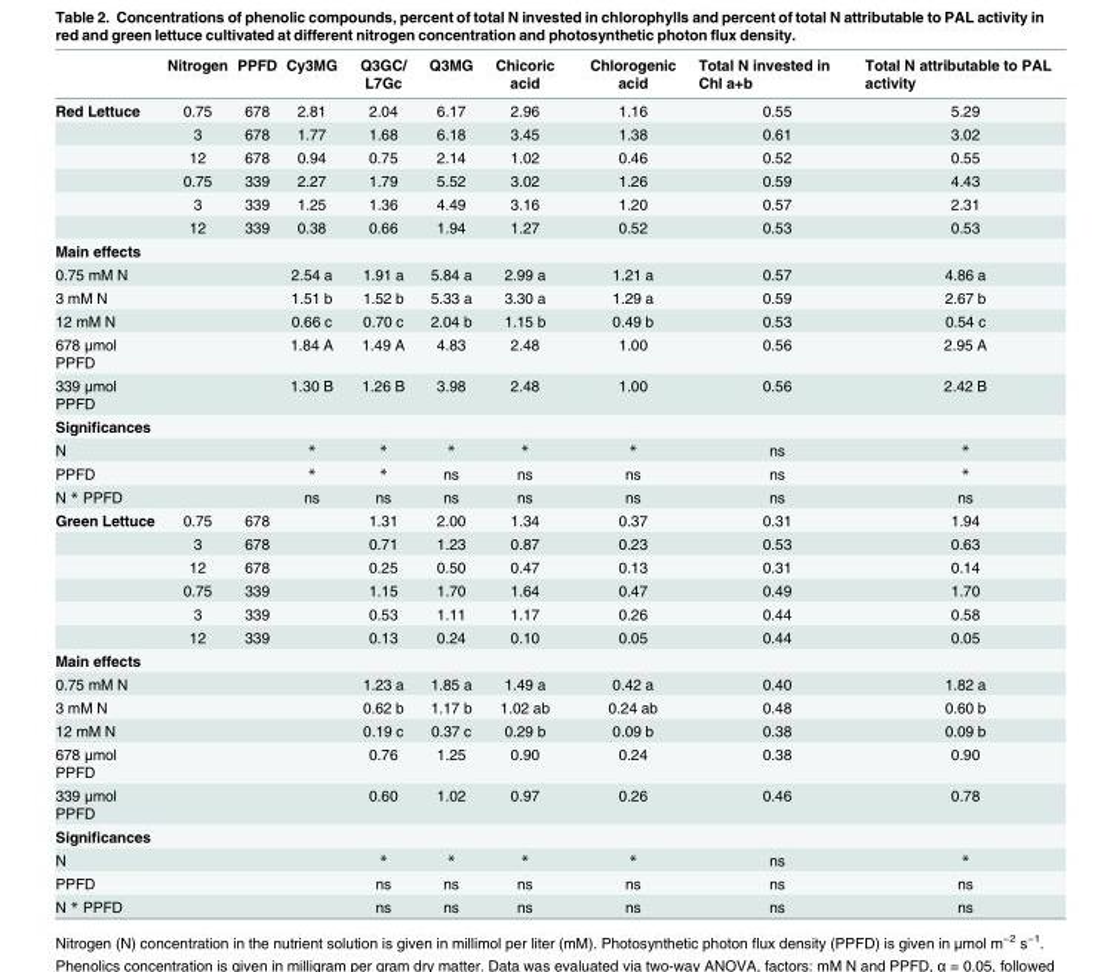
<table><thead><tr><td></td><td>Nitrogen</td><td>PPFD</td><td>Cy3MG</td><td>Q3GC/ L7Gc</td><td>Q3MG</td><td>Chicoric acid</td><td>Chlorogenic acid</td><td>Total N invested in Chl a+b</td><td>Total N attributable to PAL activity</td></tr></thead><tbody><tr><td rowspan="6">Red Lettuce</td><td>0.75</td><td>678</td><td>2.81</td><td>2.04</td><td>6.17</td><td>2.96</td><td>1.16</td><td>0.55</td><td>5.29</td></tr><tr><td>3</td><td>678</td><td>1.77</td><td>1.68</td><td>6.18</td><td>3.45</td><td>1.38</td><td>0.61</td><td>3.02</td></tr><tr><td>12</td><td>678</td><td>0.94</td><td>0.75</td><td>2.14</td><td>1.02</td><td>0.46</td><td>0.52</td><td>0.55</td></tr><tr><td>0.75</td><td>339</td><td>2.27</td><td>1.79</td><td>5.52</td><td>3.02</td><td>1.26</td><td>0.59</td><td>4.43</td></tr><tr><td>3</td><td>339</td><td>1.25</td><td>1.36</td><td>4.49</td><td>3.16</td><td>1.20</td><td>0.57</td><td>2.31</td></tr><tr><td>12</td><td>339</td><td>0.38</td><td>0.66</td><td>1.94</td><td>1.27</td><td>0.52</td><td>0.53</td><td>0.53</td></tr><tr><td colspan="10">Main effects</td></tr><tr><td>0.75 mM N</td><td></td><td></td><td>2.54 a</td><td>1.91 a</td><td>5.84 a</td><td>2.99 a</td><td>1.21 a</td><td>0.57</td><td>4.86 a</td></tr><tr><td>3 mM N</td><td></td><td></td><td>1.51 b</td><td>1.52 b</td><td>5.33 a</td><td>3.30 a</td><td>1.29 a</td><td>0.59</td><td>2.67 b</td></tr><tr><td>12 mM N</td><td></td><td></td><td>0.66 c</td><td>0.70 c</td><td>2.04 b</td><td>1.15 b</td><td>0.49 b</td><td>0.53</td><td>0.54 c</td></tr><tr><td>678 μmol PPFD</td><td></td><td></td><td>1.84 A</td><td>1.49 A</td><td>4.83</td><td>2.48</td><td>1.00</td><td>0.56</td><td>2.95 A</td></tr><tr><td>339 μmol PPFD</td><td></td><td></td><td>1.30 B</td><td>1.26 B</td><td>3.98</td><td>2.48</td><td>1.00</td><td>0.56</td><td>2.42 B</td></tr><tr><td colspan="10">Significances</td></tr><tr><td>N</td><td></td><td></td><td>*</td><td>*</td><td>*</td><td>*</td><td>*</td><td>ns</td><td>*</td></tr><tr><td>PPFD</td><td></td><td></td><td>*</td><td>*</td><td>ns</td><td>ns</td><td>ns</td><td>ns</td><td>*</td></tr><tr><td>N * PPFD</td><td></td><td></td><td>ns</td><td>ns</td><td>ns</td><td>ns</td><td>ns</td><td>ns</td><td>ns</td></tr><tr><td rowspan="6">Green Lettuce</td><td>0.75</td><td>678</td><td></td><td>1.31</td><td>2.00</td><td>1.34</td><td>0.37</td><td>0.31</td><td>1.94</td></tr><tr><td>3</td><td>678</td><td></td><td>0.71</td><td>1.23</td><td>0.87</td><td>0.23</td><td>0.53</td><td>0.63</td></tr><tr><td>12</td><td>678</td><td></td><td>0.25</td><td>0.50</td><td>0.47</td><td>0.13</td><td>0.31</td><td>0.14</td></tr><tr><td>0.75</td><td>339</td><td></td><td>1.15</td><td>1.70</td><td>1.64</td><td>0.47</td><td>0.49</td><td>1.70</td></tr><tr><td>3</td><td>339</td><td></td><td>0.53</td><td>1.11</td><td>1.17</td><td>0.26</td><td>0.44</td><td>0.58</td></tr><tr><td>12</td><td>339</td><td></td><td>0.13</td><td>0.24</td><td>0.10</td><td>0.05</td><td>0.44</td><td>0.05</td></tr><tr><td colspan="10">Main effects</td></tr><tr><td>0.75 mM N</td><td></td><td></td><td></td><td>1.23 a</td><td>1.85 a</td><td>1.49 a</td><td>0.42 a</td><td>0.40</td><td>1.82 a</td></tr><tr><td>3 mM N</td><td></td><td></td><td></td><td>0.62 b</td><td>1.17 b</td><td>1.02 ab</td><td>0.24 ab</td><td>0.48</td><td>0.60 b</td></tr><tr><td>12 mM N</td><td></td><td></td><td></td><td>0.19 c</td><td>0.37 c</td><td>0.29 b</td><td>0.09 b</td><td>0.38</td><td>0.09 b</td></tr><tr><td>678 μmol PPFD</td><td></td><td></td><td></td><td>0.76</td><td>1.25</td><td>0.90</td><td>0.24</td><td>0.38</td><td>0.90</td></tr><tr><td>339 μmol PPFD</td><td></td><td></td><td></td><td>0.60</td><td>1.02</td><td>0.97</td><td>0.26</td><td>0.46</td><td>0.78</td></tr><tr><td colspan="10">Significances</td></tr><tr><td>N</td><td></td><td></td><td></td><td>*</td><td>*</td><td>*</td><td>*</td><td>ns</td><td>*</td></tr><tr><td>PPFD</td><td></td><td></td><td></td><td>ns</td><td>ns</td><td>ns</td><td>ns</td><td>ns</td><td>ns</td></tr><tr><td>N * PPFD</td><td></td><td></td><td></td><td>ns</td><td>ns</td><td>ns</td><td>ns</td><td>ns</td><td>ns</td></tr></tbody></table>